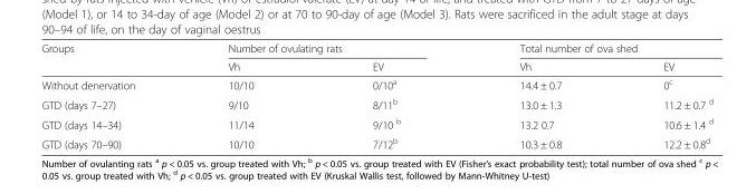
<table><thead><tr><td rowspan="2">Groups</td><td colspan="2">Number of ovulating rats</td><td colspan="2">Total number of ova shed</td></tr><tr><td>Vh</td><td>EV</td><td>Vh</td><td>EV</td></tr></thead><tbody><tr><td>Without denervation</td><td>10/10</td><td>0/10<sup>a</sup></td><td>14.4 ± 0.7</td><td>0<sup>c</sup></td></tr><tr><td>GTD (days 7–27)</td><td>9/10</td><td>8/11<sup>b</sup></td><td>13.0 ± 1.3</td><td>11.2 ± 0.7 <sup>d</sup></td></tr><tr><td>GTD (days 14–34)</td><td>11/14</td><td>9/10 <sup>b</sup></td><td>13.2 0.7</td><td>10.6 ± 1.4 <sup>d</sup></td></tr><tr><td>GTD (days 70–90)</td><td>10/10</td><td>7/12<sup>b</sup></td><td>10.3 ± 0.8</td><td>12.2 ± 0.8<sup>d</sup></td></tr></tbody></table>